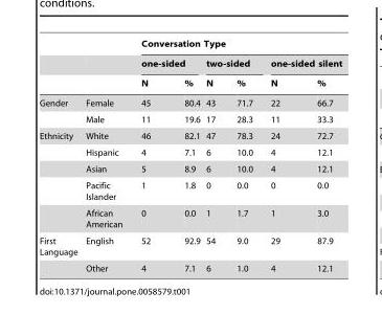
<table><thead><tr><td rowspan="3"></td><td rowspan="3"></td><td colspan="6">Conversation Type</td></tr><tr><td colspan="2">one-sided</td><td colspan="2">two-sided</td><td colspan="2">one-sided silent</td></tr><tr><td>N</td><td>%</td><td>N</td><td>%</td><td>N</td><td>%</td></tr></thead><tbody><tr><td rowspan="2">Gender</td><td>Female</td><td>45</td><td>80.4</td><td>43</td><td>71.7</td><td>22</td><td>66.7</td></tr><tr><td>Male</td><td>11</td><td>19.6</td><td>17</td><td>28.3</td><td>11</td><td>33.3</td></tr><tr><td rowspan="5">Ethnicity</td><td>White</td><td>46</td><td>82.1</td><td>47</td><td>78.3</td><td>24</td><td>72.7</td></tr><tr><td>Hispanic</td><td>4</td><td>7.1</td><td>6</td><td>10.0</td><td>4</td><td>12.1</td></tr><tr><td>Asian</td><td>5</td><td>8.9</td><td>6</td><td>10.0</td><td>4</td><td>12.1</td></tr><tr><td>Pacific Islander</td><td>1</td><td>1.8</td><td>0</td><td>0.0</td><td>0</td><td>0.0</td></tr><tr><td>African American</td><td>0</td><td>0.0</td><td>1</td><td>1.7</td><td>1</td><td>3.0</td></tr><tr><td rowspan="2">First Language</td><td>English</td><td>52</td><td>92.9</td><td>54</td><td>9.0</td><td>29</td><td>87.9</td></tr><tr><td>Other</td><td>4</td><td>7.1</td><td>6</td><td>1.0</td><td>4</td><td>12.1</td></tr></tbody></table>